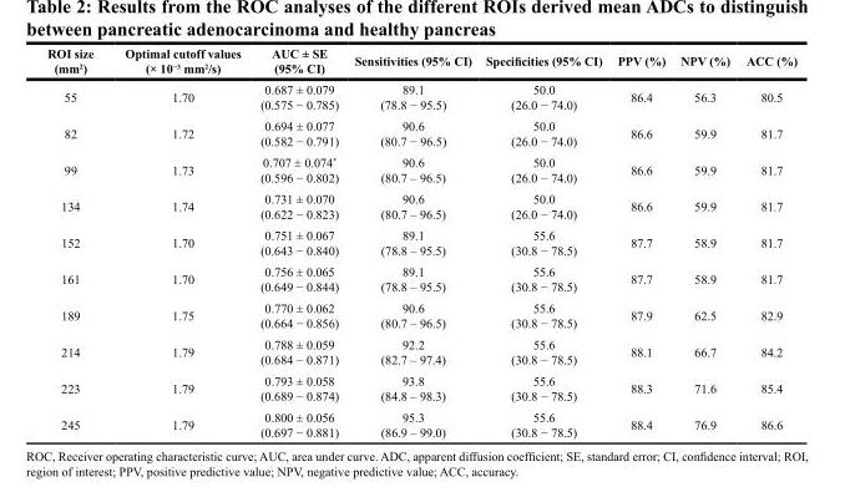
<table><thead><tr><td>ROI size (mm<sup>2</sup>)</td><td>Optimal cutoff values (× 10<sup>−3</sup> mm<sup>2</sup>/s)</td><td>AUC ± SE (95% CI)</td><td>Sensitivities (95% CI)</td><td>Specificities (95% CI)</td><td>PPV (%)</td><td>NPV (%)</td><td>ACC (%)</td></tr></thead><tbody><tr><td>55</td><td>1.70</td><td>0.687 ± 0.079 (0.575 − 0.785)</td><td>89.1 (78.8 − 95.5)</td><td>50.0 (26.0 − 74.0)</td><td>86.4</td><td>56.3</td><td>80.5</td></tr><tr><td>82</td><td>1.72</td><td>0.694 ± 0.077 (0.582 − 0.791)</td><td>90.6 (80.7 − 96.5)</td><td>50.0 (26.0 − 74.0)</td><td>86.6</td><td>59.9</td><td>81.7</td></tr><tr><td>99</td><td>1.73</td><td>0.707 ± 0.074* (0.596 − 0.802)</td><td>90.6 (80.7 – 96.5)</td><td>50.0 (26.0 − 74.0)</td><td>86.6</td><td>59.9</td><td>81.7</td></tr><tr><td>134</td><td>1.74</td><td>0.731 ± 0.070 (0.622 − 0.823)</td><td>90.6 (80.7 – 96.5)</td><td>50.0 (26.0 − 74.0)</td><td>86.6</td><td>59.9</td><td>81.7</td></tr><tr><td>152</td><td>1.70</td><td>0.751 ± 0.067 (0.643 − 0.840)</td><td>89.1 (78.8 – 95.5)</td><td>55.6 (30.8 − 78.5)</td><td>87.7</td><td>58.9</td><td>81.7</td></tr><tr><td>161</td><td>1.70</td><td>0.756 ± 0.065 (0.649 − 0.844)</td><td>89.1 (78.8 – 95.5)</td><td>55.6 (30.8 − 78.5)</td><td>87.7</td><td>58.9</td><td>81.7</td></tr><tr><td>189</td><td>1.75</td><td>0.770 ± 0.062 (0.664 − 0.856)</td><td>90.6 (80.7 – 96.5)</td><td>55.6 (30.8 − 78.5)</td><td>87.9</td><td>62.5</td><td>82.9</td></tr><tr><td>214</td><td>1.79</td><td>0.788 ± 0.059 (0.684 − 0.871)</td><td>92.2 (82.7 – 97.4)</td><td>55.6 (30.8 − 78.5)</td><td>88.1</td><td>66.7</td><td>84.2</td></tr><tr><td>223</td><td>1.79</td><td>0.793 ± 0.058 (0.689 − 0.874)</td><td>93.8 (84.8 – 98.3)</td><td>55.6 (30.8 − 78.5)</td><td>88.3</td><td>71.6</td><td>85.4</td></tr><tr><td>245</td><td>1.79</td><td>0.800 ± 0.056 (0.697 − 0.881)</td><td>95.3 (86.9 – 99.0)</td><td>55.6 (30.8 − 78.5)</td><td>88.4</td><td>76.9</td><td>86.6</td></tr></tbody></table>